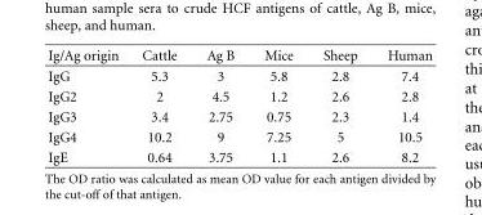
<table><thead><tr><td>Ig/Ag origin</td><td>Cattle</td><td>Ag B</td><td>Mice</td><td>Sheep</td><td>Human</td></tr></thead><tbody><tr><td>IgG</td><td>5.3</td><td>3</td><td>5.8</td><td>2.8</td><td>7.4</td></tr><tr><td>IgG2</td><td>2</td><td>4.5</td><td>1.2</td><td>2.6</td><td>2.8</td></tr><tr><td>IgG3</td><td>3.4</td><td>2.75</td><td>0.75</td><td>2.3</td><td>1.4</td></tr><tr><td>IgG4</td><td>10.2</td><td>9</td><td>7.25</td><td>5</td><td>10.5</td></tr><tr><td>IgE</td><td>0.64</td><td>3.75</td><td>1.1</td><td>2.6</td><td>8.2</td></tr></tbody></table>